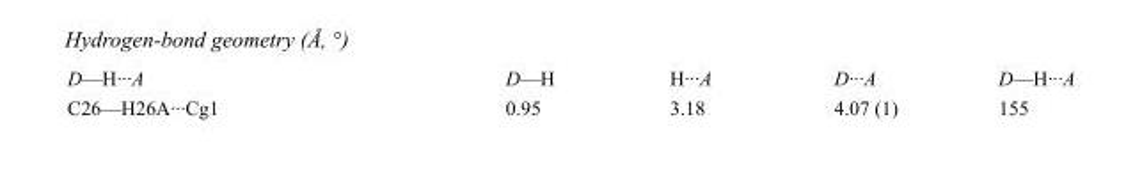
<table><tbody><tr><td>D—H···A</td><td>D—H</td><td>H···A</td><td>D···A</td><td>D—H···A</td></tr><tr><td>C26—H26A···Cg1</td><td>0.95</td><td>3.18</td><td>4.07 (1)</td><td>155</td></tr></tbody></table>